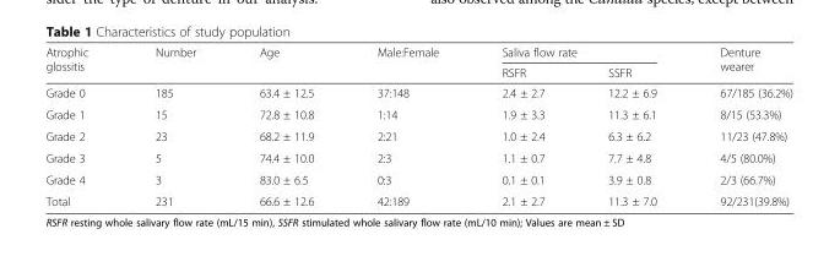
<table><thead><tr><td rowspan="2">Atrophic glossitis</td><td rowspan="2">Number</td><td rowspan="2">Age</td><td rowspan="2">Male:Female</td><td colspan="2">Saliva flow rate</td><td rowspan="2">Denture wearer</td></tr><tr><td>RSFR</td><td>SSFR</td></tr></thead><tbody><tr><td>Grade 0</td><td>185</td><td>63.4 ± 12.5</td><td>37:148</td><td>2.4 ± 2.7</td><td>12.2 ± 6.9</td><td>67/185 (36.2%)</td></tr><tr><td>Grade 1</td><td>15</td><td>72.8 ± 10.8</td><td>1:14</td><td>1.9 ± 3.3</td><td>11.3 ± 6.1</td><td>8/15 (53.3%)</td></tr><tr><td>Grade 2</td><td>23</td><td>68.2 ± 11.9</td><td>2:21</td><td>1.0 ± 2.4</td><td>6.3 ± 6.2</td><td>11/23 (47.8%)</td></tr><tr><td>Grade 3</td><td>5</td><td>74.4 ± 10.0</td><td>2:3</td><td>1.1 ± 0.7</td><td>7.7 ± 4.8</td><td>4/5 (80.0%)</td></tr><tr><td>Grade 4</td><td>3</td><td>83.0 ± 6.5</td><td>0:3</td><td>0.1 ± 0.1</td><td>3.9 ± 0.8</td><td>2/3 (66.7%)</td></tr><tr><td>Total</td><td>231</td><td>66.6 ± 12.6</td><td>42:189</td><td>2.1 ± 2.7</td><td>11.3 ± 7.0</td><td>92/231(39.8%)</td></tr></tbody></table>